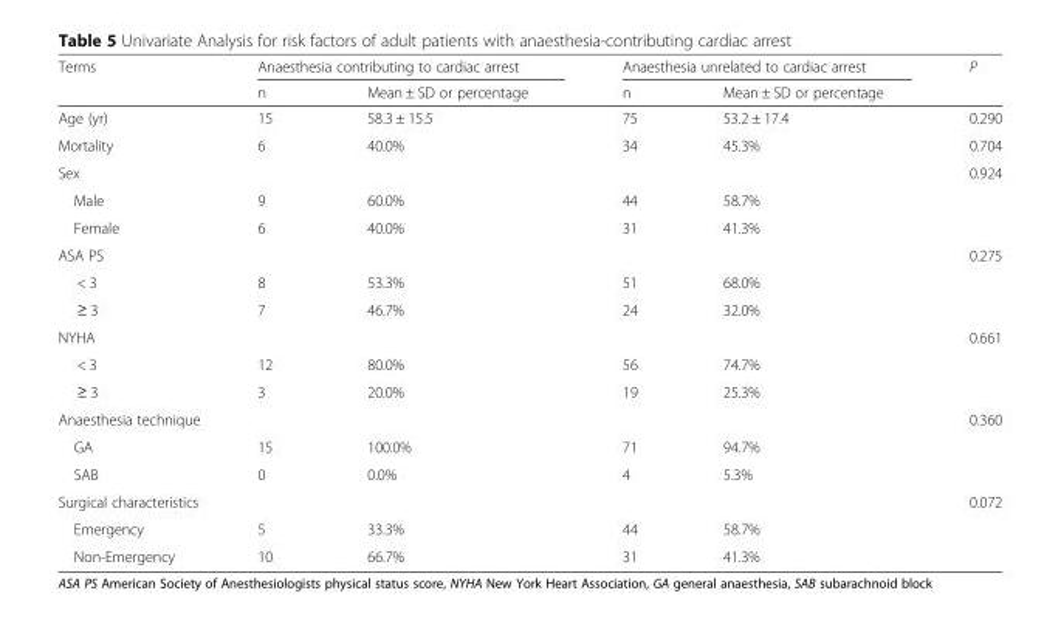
<table><thead><tr><td rowspan="2">Terms</td><td colspan="2">Anaesthesia contributing to cardiac arrest</td><td colspan="2">Anaesthesia unrelated to cardiac arrest</td><td rowspan="2">P</td></tr><tr><td>n</td><td>Mean ± SD or percentage</td><td>n</td><td>Mean ± SD or percentage</td></tr></thead><tbody><tr><td>Age (yr)</td><td>15</td><td>58.3 ± 15.5</td><td>75</td><td>53.2 ± 17.4</td><td>0.290</td></tr><tr><td>Mortality</td><td>6</td><td>40.0%</td><td>34</td><td>45.3%</td><td>0.704</td></tr><tr><td>Sex</td><td></td><td></td><td></td><td></td><td>0.924</td></tr><tr><td>Male</td><td>9</td><td>60.0%</td><td>44</td><td>58.7%</td><td></td></tr><tr><td>Female</td><td>6</td><td>40.0%</td><td>31</td><td>41.3%</td><td></td></tr><tr><td>ASA PS</td><td></td><td></td><td></td><td></td><td>0.275</td></tr><tr><td>&lt; 3</td><td>8</td><td>53.3%</td><td>51</td><td>68.0%</td><td></td></tr><tr><td>≥ 3</td><td>7</td><td>46.7%</td><td>24</td><td>32.0%</td><td></td></tr><tr><td>NYHA</td><td></td><td></td><td></td><td></td><td>0.661</td></tr><tr><td>&lt; 3</td><td>12</td><td>80.0%</td><td>56</td><td>74.7%</td><td></td></tr><tr><td>≥ 3</td><td>3</td><td>20.0%</td><td>19</td><td>25.3%</td><td></td></tr><tr><td>Anaesthesia technique</td><td></td><td></td><td></td><td></td><td>0.360</td></tr><tr><td>GA</td><td>15</td><td>100.0%</td><td>71</td><td>94.7%</td><td></td></tr><tr><td>SAB</td><td>0</td><td>0.0%</td><td>4</td><td>5.3%</td><td></td></tr><tr><td>Surgical characteristics</td><td></td><td></td><td></td><td></td><td>0.072</td></tr><tr><td>Emergency</td><td>5</td><td>33.3%</td><td>44</td><td>58.7%</td><td></td></tr><tr><td>Non-Emergency</td><td>10</td><td>66.7%</td><td>31</td><td>41.3%</td><td></td></tr></tbody></table>